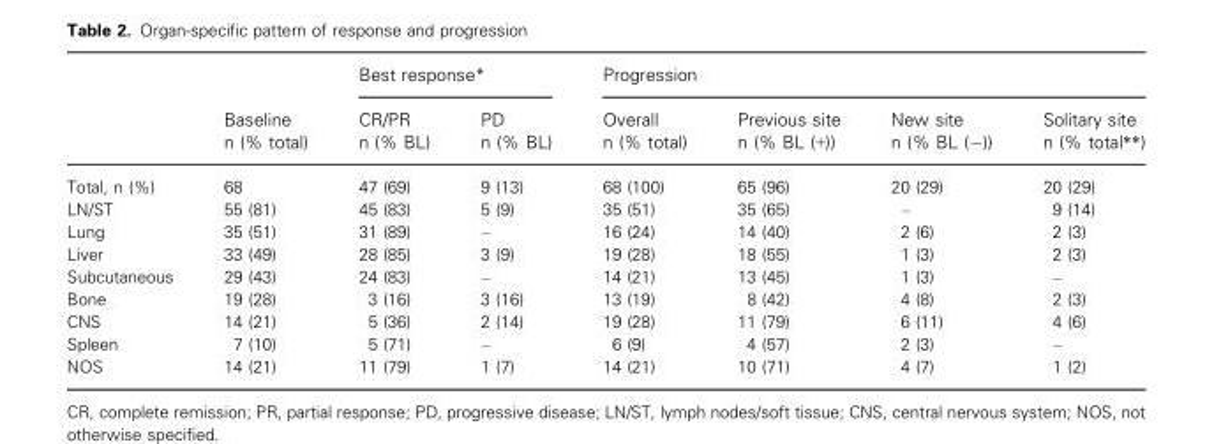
<table><thead><tr><td rowspan="3"></td><td rowspan="3">Baseline n (% total)</td><td colspan="2">Best response*</td><td colspan="4">Progression</td></tr><tr><td rowspan="2">CR/PR n (% BL)</td><td rowspan="2">PD n (% BL)</td><td rowspan="2">Overall n (% total)</td><td rowspan="2">Previous site n (% BL (+))</td><td rowspan="2">New site n (% BL (−))</td><td rowspan="2">Solitary site n (% total**)</td></tr><tr></tr></thead><tbody><tr><td>Total, n (%)</td><td>68</td><td>47 (69)</td><td>9 (13)</td><td>68 (100)</td><td>65 (96)</td><td>20 (29)</td><td>20 (29)</td></tr><tr><td>LN/ST</td><td>55 (81)</td><td>45 (83)</td><td>5 (9)</td><td>35 (51)</td><td>35 (65)</td><td>–</td><td>9 (14)</td></tr><tr><td>Lung</td><td>35 (51)</td><td>31 (89)</td><td>–</td><td>16 (24)</td><td>14 (40)</td><td>2 (6)</td><td>2 (3)</td></tr><tr><td>Liver</td><td>33 (49)</td><td>28 (85)</td><td>3 (9)</td><td>19 (28)</td><td>18 (55)</td><td>1 (3)</td><td>2 (3)</td></tr><tr><td>Subcutaneous</td><td>29 (43)</td><td>24 (83)</td><td>–</td><td>14 (21)</td><td>13 (45)</td><td>1 (3)</td><td>–</td></tr><tr><td>Bone</td><td>19 (28)</td><td>3 (16)</td><td>3 (16)</td><td>13 (19)</td><td>8 (42)</td><td>4 (8)</td><td>2 (3)</td></tr><tr><td>CNS</td><td>14 (21)</td><td>5 (36)</td><td>2 (14)</td><td>19 (28)</td><td>11 (79)</td><td>6 (11)</td><td>4 (6)</td></tr><tr><td>Spleen</td><td>7 (10)</td><td>5 (71)</td><td>–</td><td>6 (9)</td><td>4 (57)</td><td>2 (3)</td><td>–</td></tr><tr><td>NOS</td><td>14 (21)</td><td>11 (79)</td><td>1 (7)</td><td>14 (21)</td><td>10 (71)</td><td>4 (7)</td><td>1 (2)</td></tr></tbody></table>